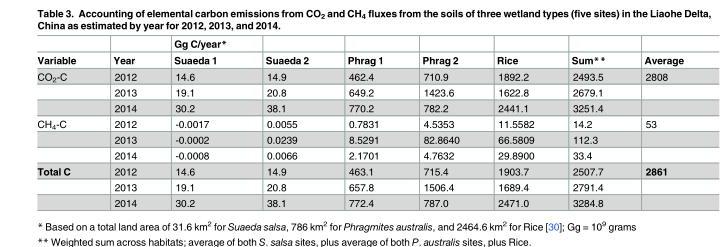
<table><thead><tr><td rowspan="2">Variable</td><td rowspan="2">Year</td><td rowspan="2">Gg C/year* Suaeda 1</td><td rowspan="2">Suaeda 2</td><td rowspan="2">Phrag 1</td><td rowspan="2">Phrag 2</td><td rowspan="2">Rice</td><td rowspan="2">Sum**</td><td rowspan="2">Average</td></tr><tr></tr></thead><tbody><tr><td rowspan="3">CO<sub>2</sub>-C</td><td>2012</td><td>14.6</td><td>14.9</td><td>462.4</td><td>710.9</td><td>1892.2</td><td>2493.5</td><td>2808</td></tr><tr><td>2013</td><td>19.1</td><td>20.8</td><td>649.2</td><td>1423.6</td><td>1622.8</td><td>2679.1</td><td></td></tr><tr><td>2014</td><td>30.2</td><td>38.1</td><td>770.2</td><td>782.2</td><td>2441.1</td><td>3251.4</td><td></td></tr><tr><td rowspan="3">CH<sub>4</sub>-C</td><td>2012</td><td>-0.0017</td><td>0.0055</td><td>0.7831</td><td>4.5353</td><td>11.5582</td><td>14.2</td><td>53</td></tr><tr><td>2013</td><td>-0.0002</td><td>0.0239</td><td>8.5291</td><td>82.8640</td><td>66.5809</td><td>112.3</td><td></td></tr><tr><td>2014</td><td>-0.0008</td><td>0.0066</td><td>2.1701</td><td>4.7632</td><td>29.8900</td><td>33.4</td><td></td></tr><tr><td rowspan="3">Total C</td><td>2012</td><td>14.6</td><td>14.9</td><td>463.1</td><td>715.4</td><td>1903.7</td><td>2507.7</td><td>2861</td></tr><tr><td>2013</td><td>19.1</td><td>20.8</td><td>657.8</td><td>1506.4</td><td>1689.4</td><td>2791.4</td><td></td></tr><tr><td>2014</td><td>30.2</td><td>38.1</td><td>772.4</td><td>787.0</td><td>2471.0</td><td>3284.8</td><td></td></tr></tbody></table>